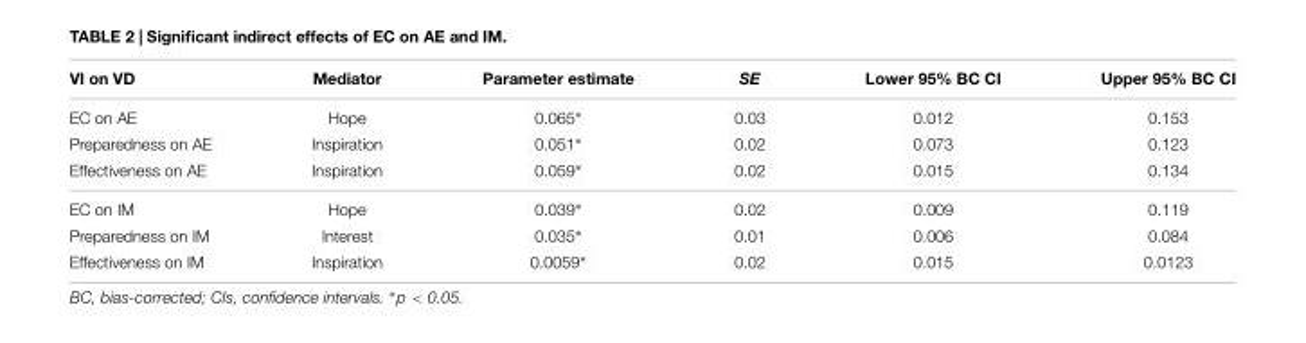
<table><thead><tr><td>VI on VD</td><td>Mediator</td><td>Parameter estimate</td><td>SE</td><td>Lower 95% BC CI</td><td>Upper 95% BC CI</td></tr></thead><tbody><tr><td>EC on AE</td><td>Hope</td><td>0.065∗</td><td>0.03</td><td>0.012</td><td>0.153</td></tr><tr><td>Preparedness on AE</td><td>Inspiration</td><td>0.051∗</td><td>0.02</td><td>0.073</td><td>0.123</td></tr><tr><td>Effectiveness on AE</td><td>Inspiration</td><td>0.059∗</td><td>0.02</td><td>0.015</td><td>0.134</td></tr><tr><td>EC on IM</td><td>Hope</td><td>0.039∗</td><td>0.02</td><td>0.009</td><td>0.119</td></tr><tr><td>Preparedness on IM</td><td>Interest</td><td>0.035∗</td><td>0.01</td><td>0.006</td><td>0.084</td></tr><tr><td>Effectiveness on IM</td><td>Inspiration</td><td>0.0059∗</td><td>0.02</td><td>0.015</td><td>0.0123</td></tr></tbody></table>